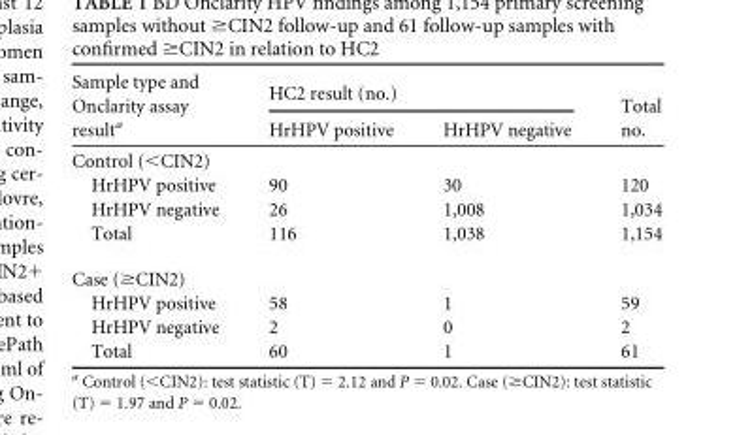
<table><thead><tr><td rowspan="2">Sample type and Onclarity assay result<sup>a</sup></td><td colspan="2">HC2 result (no.)</td><td rowspan="2">Total no.</td></tr><tr><td>HrHPV positive</td><td>HrHPV negative</td></tr></thead><tbody><tr><td colspan="4">Control (&lt;CIN2)</td></tr><tr><td>HrHPV positive</td><td>90</td><td>30</td><td>120</td></tr><tr><td>HrHPV negative</td><td>26</td><td>1,008</td><td>1,034</td></tr><tr><td>Total</td><td>116</td><td>1,038</td><td>1,154</td></tr><tr><td colspan="4">Case (≥CIN2)</td></tr><tr><td>HrHPV positive</td><td>58</td><td>1</td><td>59</td></tr><tr><td>HrHPV negative</td><td>2</td><td>0</td><td>2</td></tr><tr><td>Total</td><td>60</td><td>1</td><td>61</td></tr></tbody></table>